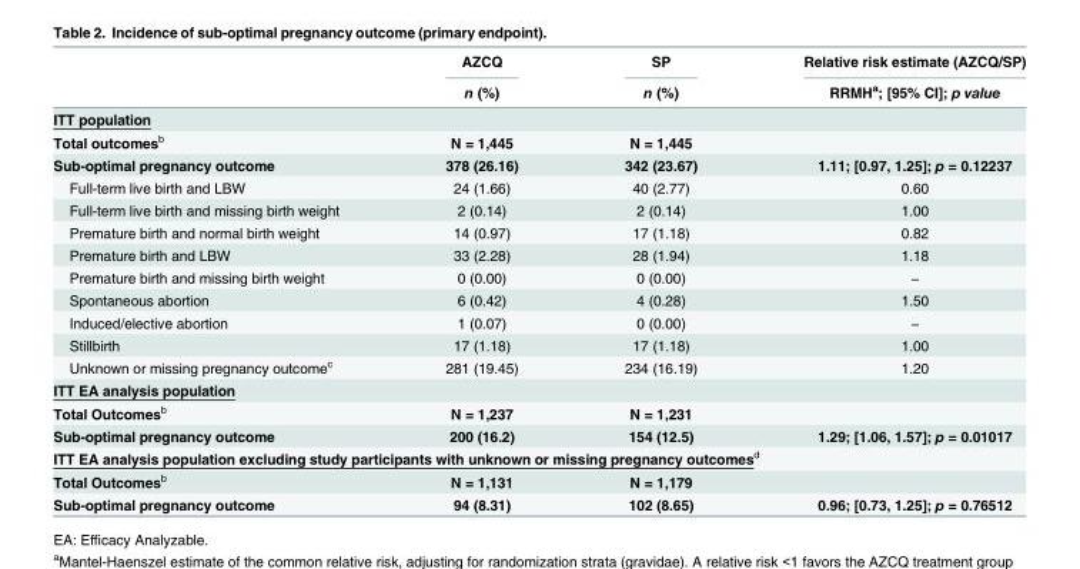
<table><thead><tr><td rowspan="2"></td><td rowspan="2">AZCQ n (%)</td><td rowspan="2">SP n (%)</td><td rowspan="2">Relative risk estimate (AZCQ/SP) RRMH<sup>a</sup>; [95% CI]; p value</td></tr><tr></tr></thead><tbody><tr><td colspan="4">ITT population</td></tr><tr><td>Total outcomes<sup>b</sup></td><td>N = 1,445</td><td>N = 1,445</td><td></td></tr><tr><td>Sub-optimal pregnancy outcome</td><td>378 (26.16)</td><td>342 (23.67)</td><td>1.11; [0.97, 1.25]; p = 0.12237</td></tr><tr><td>Full-term live birth and LBW</td><td>24 (1.66)</td><td>40 (2.77)</td><td>0.60</td></tr><tr><td>Full-term live birth and missing birth weight</td><td>2 (0.14)</td><td>2 (0.14)</td><td>1.00</td></tr><tr><td>Premature birth and normal birth weight</td><td>14 (0.97)</td><td>17 (1.18)</td><td>0.82</td></tr><tr><td>Premature birth and LBW</td><td>33 (2.28)</td><td>28 (1.94)</td><td>1.18</td></tr><tr><td>Premature birth and missing birth weight</td><td>0 (0.00)</td><td>0 (0.00)</td><td>−</td></tr><tr><td>Spontaneous abortion</td><td>6 (0.42)</td><td>4 (0.28)</td><td>1.50</td></tr><tr><td>Induced/elective abortion</td><td>1 (0.07)</td><td>0 (0.00)</td><td>−</td></tr><tr><td>Stillbirth</td><td>17 (1.18)</td><td>17 (1.18)</td><td>1.00</td></tr><tr><td>Unknown or missing pregnancy outcome<sup>c</sup></td><td>281 (19.45)</td><td>234 (16.19)</td><td>1.20</td></tr><tr><td colspan="4">ITT EA analysis population</td></tr><tr><td>Total Outcomes<sup>b</sup></td><td>N = 1,237</td><td>N = 1,231</td><td></td></tr><tr><td>Sub-optimal pregnancy outcome</td><td>200 (16.2)</td><td>154 (12.5)</td><td>1.29; [1.06, 1.57]; p = 0.01017</td></tr><tr><td colspan="4">ITT EA analysis population excluding study participants with unknown or missing pregnancy outcomes<sup>d</sup></td></tr><tr><td>Total Outcomes<sup>b</sup></td><td>N = 1,131</td><td>N = 1,179</td><td></td></tr><tr><td>Sub-optimal pregnancy outcome</td><td>94 (8.31)</td><td>102 (8.65)</td><td>0.96; [0.73, 1.25]; p = 0.76512</td></tr></tbody></table>